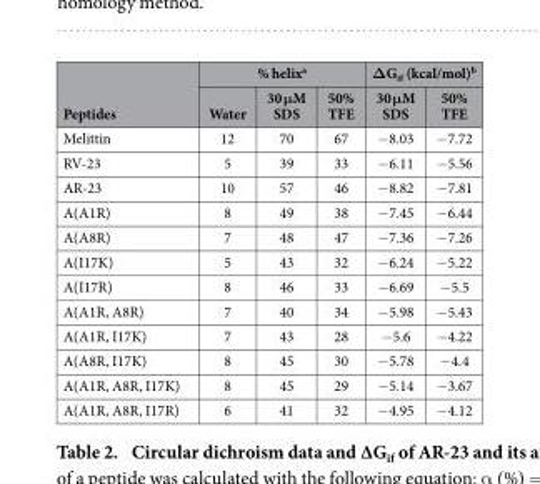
<table><thead><tr><td rowspan="2">Peptides</td><td colspan="3">% helix<sup>a</sup></td><td colspan="2">ΔG<sub>if</sub> (kcal/mol)<sup>b</sup></td></tr><tr><td>Water</td><td>30 μM SDS</td><td>50% TFE</td><td>30 μM SDS</td><td>50% TFE</td></tr></thead><tbody><tr><td>Melittin</td><td>12</td><td>70</td><td>67</td><td>− 8.03</td><td>− 7.72</td></tr><tr><td>RV-23</td><td>5</td><td>39</td><td>33</td><td>− 6.11</td><td>− 5.56</td></tr><tr><td>AR-23</td><td>10</td><td>57</td><td>46</td><td>− 8.82</td><td>− 7.81</td></tr><tr><td>A(A1R)</td><td>8</td><td>49</td><td>38</td><td>− 7.45</td><td>− 6.44</td></tr><tr><td>A(A8R)</td><td>7</td><td>48</td><td>47</td><td>− 7.36</td><td>− 7.26</td></tr><tr><td>A(I17K)</td><td>5</td><td>43</td><td>32</td><td>− 6.24</td><td>− 5.22</td></tr><tr><td>A(I17R)</td><td>8</td><td>46</td><td>33</td><td>− 6.69</td><td>− 5.5</td></tr><tr><td>A(A1R, A8R)</td><td>7</td><td>40</td><td>34</td><td>− 5.98</td><td>− 5.43</td></tr><tr><td>A(A1R, I17K)</td><td>7</td><td>43</td><td>28</td><td>− 5.6</td><td>− 4.22</td></tr><tr><td>A(A8R, I17K)</td><td>8</td><td>45</td><td>30</td><td>− 5.78</td><td>− 4.4</td></tr><tr><td>A(A1R, A8R, I17K)</td><td>8</td><td>45</td><td>29</td><td>− 5.14</td><td>− 3.67</td></tr><tr><td>A(A1R, A8R, I17R)</td><td>6</td><td>41</td><td>32</td><td>− 4.95</td><td>− 4.12</td></tr></tbody></table>